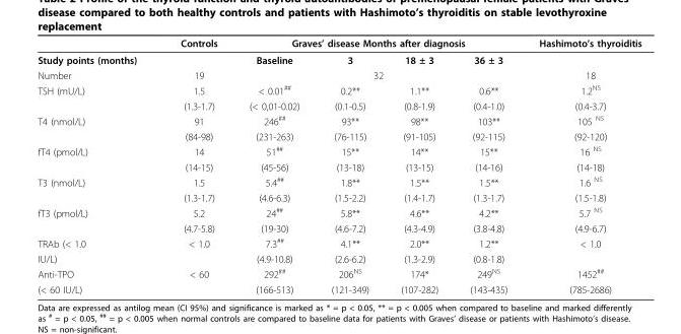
<table><thead><tr><td rowspan="2">Study points (months)</td><td rowspan="2">Controls</td><td colspan="4">Graves’ disease Months after diagnosis</td><td rowspan="2">Hashimoto’s thyroiditis</td></tr><tr><td>Baseline</td><td>3</td><td>18 ± 3</td><td>36 ± 3</td></tr></thead><tbody><tr><td>Number</td><td>19</td><td colspan="4">32</td><td>18</td></tr><tr><td rowspan="2">TSH (mU/L)</td><td>1.5</td><td>&lt; 0.01<sup>##</sup></td><td>0.2**</td><td>1.1**</td><td>0.6**</td><td>1.2<sup>NS</sup></td></tr><tr><td>(1.3-1.7)</td><td>(&lt; 0,01-0.02)</td><td>(0.1-0.5)</td><td>(0.8-1.9)</td><td>(0.4-1.0)</td><td>(0.4-3.7)</td></tr><tr><td rowspan="2">T4 (nmol/L)</td><td>91</td><td>246<sup>##</sup></td><td>93**</td><td>98**</td><td>103**</td><td>105 <sup>NS</sup></td></tr><tr><td>(84-98)</td><td>(231-263)</td><td>(76-115)</td><td>(91-105)</td><td>(92-115)</td><td>(92-120)</td></tr><tr><td rowspan="2">fT4 (pmol/L)</td><td>14</td><td>51<sup>##</sup></td><td>15**</td><td>14**</td><td>15**</td><td>16 <sup>NS</sup></td></tr><tr><td>(14-15)</td><td>(45-56)</td><td>(13-18)</td><td>(13-15)</td><td>(14-16)</td><td>(14-18)</td></tr><tr><td rowspan="2">T3 (nmol/L)</td><td>1.5</td><td>5.4<sup>##</sup></td><td>1.8**</td><td>1.5**</td><td>1.5**</td><td>1.6 <sup>NS</sup></td></tr><tr><td>(1.3-1.7)</td><td>(4.6-6.3)</td><td>(1.5-2.2)</td><td>(1.4-1.7)</td><td>(1.3-1.7)</td><td>(1.5-1.8)</td></tr><tr><td rowspan="2">fT3 (pmol/L)</td><td>5.2</td><td>24<sup>##</sup></td><td>5.8**</td><td>4.6**</td><td>4.2**</td><td>5.7 <sup>NS</sup></td></tr><tr><td>(4.7-5.8)</td><td>(19-30)</td><td>(4.6-7.2)</td><td>(4.3-4.9)</td><td>(3.8-4.8)</td><td>(4.9-6.7)</td></tr><tr><td>TRAb (&lt; 1.0</td><td>&lt; 1.0</td><td>7.3<sup>##</sup></td><td>4.1**</td><td>2.0**</td><td>1.2**</td><td>&lt; 1.0</td></tr><tr><td>IU/L)</td><td></td><td>(4.9-10.8)</td><td>(2.6-6.2)</td><td>(1.3-2.9)</td><td>(0.8-1.8)</td><td></td></tr><tr><td>Anti-TPO</td><td>&lt; 60</td><td>292<sup>##</sup></td><td>206<sup>NS</sup></td><td>174*</td><td>249<sup>NS</sup></td><td>1452<sup>##</sup></td></tr><tr><td>(&lt; 60 IU/L)</td><td></td><td>(166-513)</td><td>(121-349)</td><td>(107-282)</td><td>(143-435)</td><td>(785-2686)</td></tr></tbody></table>